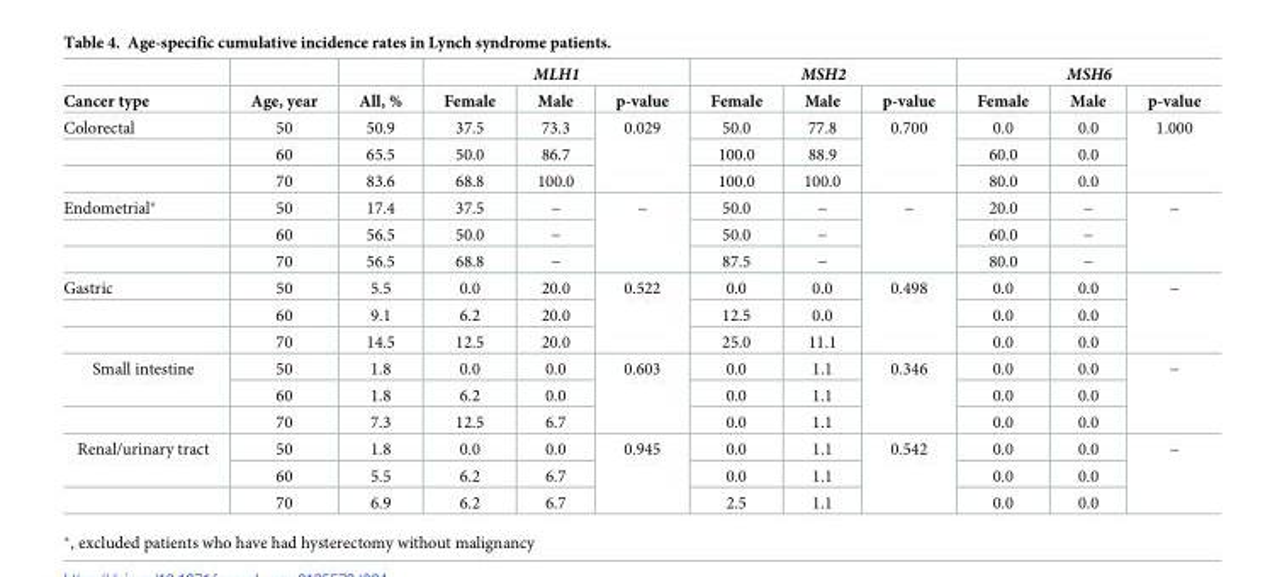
<table><thead><tr><td rowspan="2">Cancer type</td><td rowspan="2">Age, year</td><td rowspan="2">All, %</td><td colspan="3">MLH1</td><td colspan="3">MSH2</td><td colspan="3">MSH6</td></tr><tr><td>Female</td><td>Male</td><td>p-value</td><td>Female</td><td>Male</td><td>p-value</td><td>Female</td><td>Male</td><td>p-value</td></tr></thead><tbody><tr><td rowspan="3">Colorectal</td><td>50</td><td>50.9</td><td>37.5</td><td>73.3</td><td rowspan="3">0.029</td><td>50.0</td><td>77.8</td><td rowspan="3">0.700</td><td>0.0</td><td>0.0</td><td rowspan="3">1.000</td></tr><tr><td>60</td><td>65.5</td><td>50.0</td><td>86.7</td><td>100.0</td><td>88.9</td><td>60.0</td><td>0.0</td></tr><tr><td>70</td><td>83.6</td><td>68.8</td><td>100.0</td><td>100.0</td><td>100.0</td><td>80.0</td><td>0.0</td></tr><tr><td rowspan="3">Endometrial*</td><td>50</td><td>17.4</td><td>37.5</td><td>−</td><td rowspan="3">−</td><td>50.0</td><td>−</td><td rowspan="3">−</td><td>20.0</td><td>−</td><td rowspan="3">−</td></tr><tr><td>60</td><td>56.5</td><td>50.0</td><td>−</td><td>50.0</td><td>−</td><td>60.0</td><td>−</td></tr><tr><td>70</td><td>56.5</td><td>68.8</td><td>−</td><td>87.5</td><td>−</td><td>80.0</td><td>−</td></tr><tr><td rowspan="3">Gastric</td><td>50</td><td>5.5</td><td>0.0</td><td>20.0</td><td rowspan="3">0.522</td><td>0.0</td><td>0.0</td><td rowspan="3">0.498</td><td>0.0</td><td>0.0</td><td rowspan="3">−</td></tr><tr><td>60</td><td>9.1</td><td>6.2</td><td>20.0</td><td>12.5</td><td>0.0</td><td>0.0</td><td>0.0</td></tr><tr><td>70</td><td>14.5</td><td>12.5</td><td>20.0</td><td>25.0</td><td>11.1</td><td>0.0</td><td>0.0</td></tr><tr><td rowspan="3">Small intestine</td><td>50</td><td>1.8</td><td>0.0</td><td>0.0</td><td rowspan="3">0.603</td><td>0.0</td><td>1.1</td><td rowspan="3">0.346</td><td>0.0</td><td>0.0</td><td rowspan="3">−</td></tr><tr><td>60</td><td>1.8</td><td>6.2</td><td>0.0</td><td>0.0</td><td>1.1</td><td>0.0</td><td>0.0</td></tr><tr><td>70</td><td>7.3</td><td>12.5</td><td>6.7</td><td>0.0</td><td>1.1</td><td>0.0</td><td>0.0</td></tr><tr><td rowspan="3">Renal/urinary tract</td><td>50</td><td>1.8</td><td>0.0</td><td>0.0</td><td rowspan="3">0.945</td><td>0.0</td><td>1.1</td><td rowspan="3">0.542</td><td>0.0</td><td>0.0</td><td rowspan="3">−</td></tr><tr><td>60</td><td>5.5</td><td>6.2</td><td>6.7</td><td>0.0</td><td>1.1</td><td>0.0</td><td>0.0</td></tr><tr><td>70</td><td>6.9</td><td>6.2</td><td>6.7</td><td>2.5</td><td>1.1</td><td>0.0</td><td>0.0</td></tr></tbody></table>